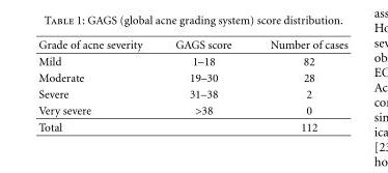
<table><thead><tr><td>Grade of acne severity</td><td>GAGS score</td><td>Number of cases</td></tr></thead><tbody><tr><td>Mild</td><td>1–18</td><td>82</td></tr><tr><td>Moderate</td><td>19–30</td><td>28</td></tr><tr><td>Severe</td><td>31–38</td><td>2</td></tr><tr><td>Very severe</td><td>&gt;38</td><td>0</td></tr><tr><td>Total</td><td></td><td>112</td></tr></tbody></table>